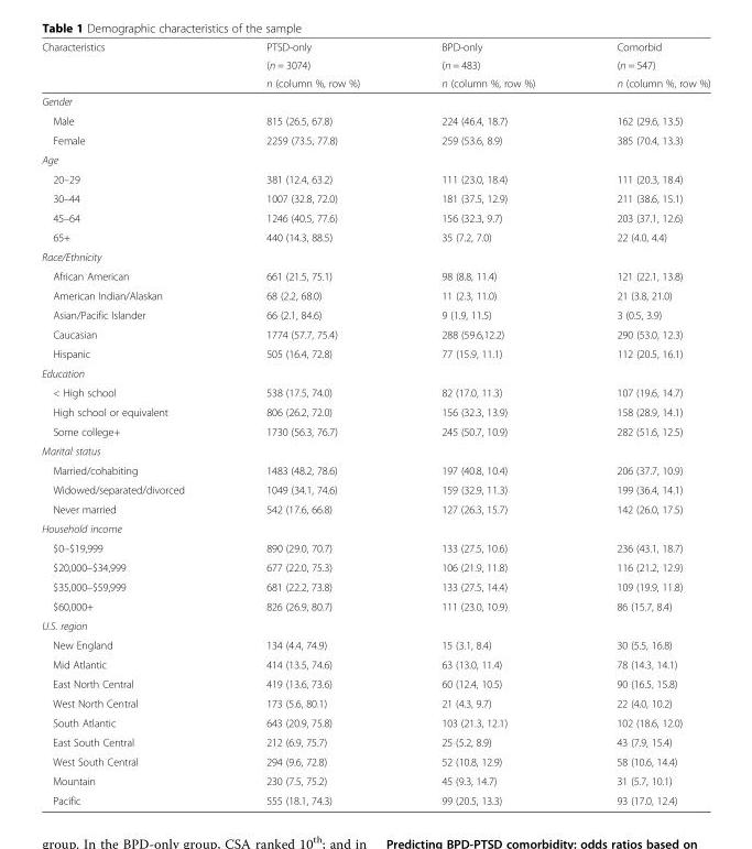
<table><thead><tr><td rowspan="3">Characteristics</td><td rowspan="3">PTSD-only (n = 3074) n (column %, row %)</td><td rowspan="3">BPD-only (n = 483) n (column %, row %)</td><td rowspan="3">Comorbid (n = 547) n (column %, row %)</td></tr><tr></tr><tr></tr></thead><tbody><tr><td colspan="4">Gender</td></tr><tr><td>Male</td><td>815 (26.5, 67.8)</td><td>224 (46.4, 18.7)</td><td>162 (29.6, 13.5)</td></tr><tr><td>Female</td><td>2259 (73.5, 77.8)</td><td>259 (53.6, 8.9)</td><td>385 (70.4, 13.3)</td></tr><tr><td colspan="4">Age</td></tr><tr><td>20–29</td><td>381 (12.4, 63.2)</td><td>111 (23.0, 18.4)</td><td>111 (20.3, 18.4)</td></tr><tr><td>30–44</td><td>1007 (32.8, 72.0)</td><td>181 (37.5, 12.9)</td><td>211 (38.6, 15.1)</td></tr><tr><td>45–64</td><td>1246 (40.5, 77.6)</td><td>156 (32.3, 9.7)</td><td>203 (37.1, 12.6)</td></tr><tr><td>65+</td><td>440 (14.3, 88.5)</td><td>35 (7.2, 7.0)</td><td>22 (4.0, 4.4)</td></tr><tr><td colspan="4">Race/Ethnicity</td></tr><tr><td>African American</td><td>661 (21.5, 75.1)</td><td>98 (8.8, 11.4)</td><td>121 (22.1, 13.8)</td></tr><tr><td>American Indian/Alaskan</td><td>68 (2.2, 68.0)</td><td>11 (2.3, 11.0)</td><td>21 (3.8, 21.0)</td></tr><tr><td>Asian/Pacific Islander</td><td>66 (2.1, 84.6)</td><td>9 (1.9, 11.5)</td><td>3 (0.5, 3.9)</td></tr><tr><td>Caucasian</td><td>1774 (57.7, 75.4)</td><td>288 (59.6,12.2)</td><td>290 (53.0, 12.3)</td></tr><tr><td>Hispanic</td><td>505 (16.4, 72.8)</td><td>77 (15.9, 11.1)</td><td>112 (20.5, 16.1)</td></tr><tr><td colspan="4">Education</td></tr><tr><td>&lt; High school</td><td>538 (17.5, 74.0)</td><td>82 (17.0, 11.3)</td><td>107 (19.6, 14.7)</td></tr><tr><td>High school or equivalent</td><td>806 (26.2, 72.0)</td><td>156 (32.3, 13.9)</td><td>158 (28.9, 14.1)</td></tr><tr><td>Some college+</td><td>1730 (56.3, 76.7)</td><td>245 (50.7, 10.9)</td><td>282 (51.6, 12.5)</td></tr><tr><td colspan="4">Marital status</td></tr><tr><td>Married/cohabiting</td><td>1483 (48.2, 78.6)</td><td>197 (40.8, 10.4)</td><td>206 (37.7, 10.9)</td></tr><tr><td>Widowed/separated/divorced</td><td>1049 (34.1, 74.6)</td><td>159 (32.9, 11.3)</td><td>199 (36.4, 14.1)</td></tr><tr><td>Never married</td><td>542 (17.6, 66.8)</td><td>127 (26.3, 15.7)</td><td>142 (26.0, 17.5)</td></tr><tr><td colspan="4">Household income</td></tr><tr><td>$0–$19,999</td><td>890 (29.0, 70.7)</td><td>133 (27.5, 10.6)</td><td>236 (43.1, 18.7)</td></tr><tr><td>$20,000–$34,999</td><td>677 (22.0, 75.3)</td><td>106 (21.9, 11.8)</td><td>116 (21.2, 12.9)</td></tr><tr><td>$35,000–$59,999</td><td>681 (22.2, 73.8)</td><td>133 (27.5, 14.4)</td><td>109 (19.9, 11.8)</td></tr><tr><td>$60,000+</td><td>826 (26.9, 80.7)</td><td>111 (23.0, 10.9)</td><td>86 (15.7, 8.4)</td></tr><tr><td colspan="4">U.S. region</td></tr><tr><td>New England</td><td>134 (4.4, 74.9)</td><td>15 (3.1, 8.4)</td><td>30 (5.5, 16.8)</td></tr><tr><td>Mid Atlantic</td><td>414 (13.5, 74.6)</td><td>63 (13.0, 11.4)</td><td>78 (14.3, 14.1)</td></tr><tr><td>East North Central</td><td>419 (13.6, 73.6)</td><td>60 (12.4, 10.5)</td><td>90 (16.5, 15.8)</td></tr><tr><td>West North Central</td><td>173 (5.6, 80.1)</td><td>21 (4.3, 9.7)</td><td>22 (4.0, 10.2)</td></tr><tr><td>South Atlantic</td><td>643 (20.9, 75.8)</td><td>103 (21.3, 12.1)</td><td>102 (18.6, 12.0)</td></tr><tr><td>East South Central</td><td>212 (6.9, 75.7)</td><td>25 (5.2, 8.9)</td><td>43 (7.9, 15.4)</td></tr><tr><td>West South Central</td><td>294 (9.6, 72.8)</td><td>52 (10.8, 12.9)</td><td>58 (10.6, 14.4)</td></tr><tr><td>Mountain</td><td>230 (7.5, 75.2)</td><td>45 (9.3, 14.7)</td><td>31 (5.7, 10.1)</td></tr><tr><td>Pacific</td><td>555 (18.1, 74.3)</td><td>99 (20.5, 13.3)</td><td>93 (17.0, 12.4)</td></tr></tbody></table>